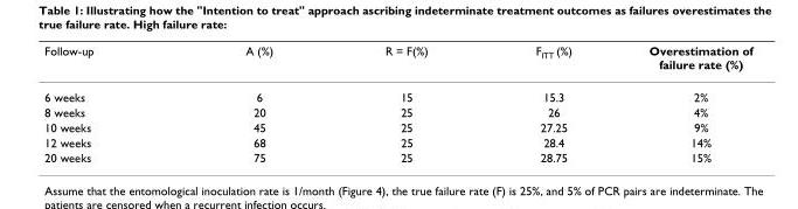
<table><thead><tr><td>Follow-up</td><td>A (%)</td><td>R = F(%)</td><td>F<sub>ITT</sub> (%)</td><td>Overestimation of failure rate (%)</td></tr></thead><tbody><tr><td>6 weeks</td><td>6</td><td>15</td><td>15.3</td><td>2%</td></tr><tr><td>8 weeks</td><td>20</td><td>25</td><td>26</td><td>4%</td></tr><tr><td>10 weeks</td><td>45</td><td>25</td><td>27.25</td><td>9%</td></tr><tr><td>12 weeks</td><td>68</td><td>25</td><td>28.4</td><td>14%</td></tr><tr><td>20 weeks</td><td>75</td><td>25</td><td>28.75</td><td>15%</td></tr></tbody></table>